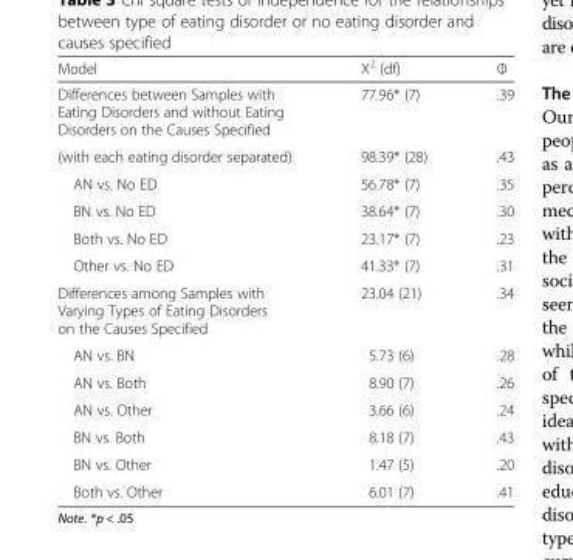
<table><thead><tr><td>Model</td><td>X<sup>2</sup> (df)</td><td>Φ</td></tr></thead><tbody><tr><td>Differences between Samples with Eating Disorders and without Eating Disorders on the Causes Specified</td><td>77.96* (7)</td><td>.39</td></tr><tr><td>(with each eating disorder separated)</td><td>98.39* (28)</td><td>.43</td></tr><tr><td>AN vs. No ED</td><td>56.78* (7)</td><td>.35</td></tr><tr><td>BN vs. No ED</td><td>38.64* (7)</td><td>.30</td></tr><tr><td>Both vs. No ED</td><td>23.17* (7)</td><td>.23</td></tr><tr><td>Other vs. No ED</td><td>41.33* (7)</td><td>.31</td></tr><tr><td>Differences among Samples with Varying Types of Eating Disorders on the Causes Specified</td><td>23.04 (21)</td><td>.34</td></tr><tr><td>AN vs. BN</td><td>5.73 (6)</td><td>.28</td></tr><tr><td>AN vs. Both</td><td>8.90 (7)</td><td>.26</td></tr><tr><td>AN vs. Other</td><td>3.66 (6)</td><td>.24</td></tr><tr><td>BN vs. Both</td><td>8.18 (7)</td><td>.43</td></tr><tr><td>BN vs. Other</td><td>1.47 (5)</td><td>.20</td></tr><tr><td>Both vs. Other</td><td>6.01 (7)</td><td>.41</td></tr></tbody></table>